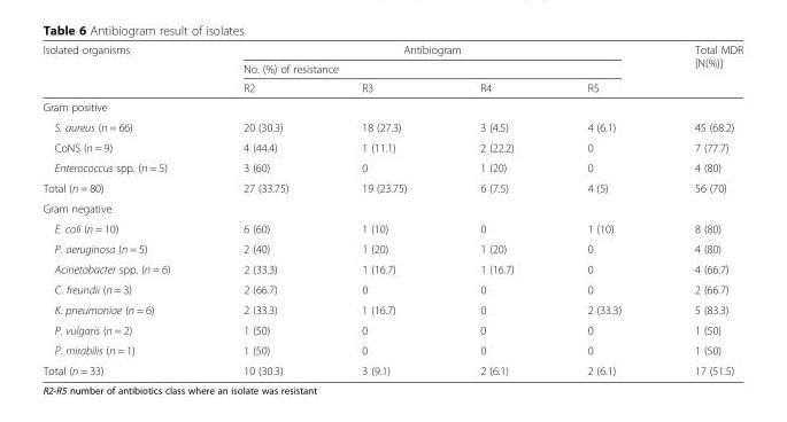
<table><thead><tr><td rowspan="3">Isolated organisms</td><td rowspan="2" colspan="4">Antibiogram No. (%) of resistance</td><td rowspan="3">Total MDR [N(%)]</td></tr><tr></tr><tr><td>R2</td><td>R3</td><td>R4</td><td>R5</td></tr></thead><tbody><tr><td colspan="6">Gram positive</td></tr><tr><td>S. aureus (n = 66)</td><td>20 (30.3)</td><td>18 (27.3)</td><td>3 (4.5)</td><td>4 (6.1)</td><td>45 (68.2)</td></tr><tr><td>CoNS (n = 9)</td><td>4 (44.4)</td><td>1 (11.1)</td><td>2 (22.2)</td><td>0</td><td>7 (77.7)</td></tr><tr><td>Enterococcus spp. (n = 5)</td><td>3 (60)</td><td>0</td><td>1 (20)</td><td>0</td><td>4 (80)</td></tr><tr><td>Total (n = 80)</td><td>27 (33.75)</td><td>19 (23.75)</td><td>6 (7.5)</td><td>4 (5)</td><td>56 (70)</td></tr><tr><td colspan="6">Gram negative</td></tr><tr><td>E. coli (n = 10)</td><td>6 (60)</td><td>1 (10)</td><td>0</td><td>1 (10)</td><td>8 (80)</td></tr><tr><td>P. aeruginosa (n = 5)</td><td>2 (40)</td><td>1 (20)</td><td>1 (20)</td><td>0</td><td>4 (80)</td></tr><tr><td>Acinetobacter spp. (n = 6)</td><td>2 (33.3)</td><td>1 (16.7)</td><td>1 (16.7)</td><td>0</td><td>4 (66.7)</td></tr><tr><td>C. freundii (n = 3)</td><td>2 (66.7)</td><td>0</td><td>0</td><td>0</td><td>2 (66.7)</td></tr><tr><td>K. pneumoniae (n = 6)</td><td>2 (33.3)</td><td>1 (16.7)</td><td>0</td><td>2 (33.3)</td><td>5 (83.3)</td></tr><tr><td>P. vulgaris (n = 2)</td><td>1 (50)</td><td>0</td><td>0</td><td>0</td><td>1 (50)</td></tr><tr><td>P. mirabilis (n = 1)</td><td>1 (50)</td><td>0</td><td>0</td><td>0</td><td>1 (50)</td></tr><tr><td>Total (n = 33)</td><td>10 (30.3)</td><td>3 (9.1)</td><td>2 (6.1)</td><td>2 (6.1)</td><td>17 (51.5)</td></tr></tbody></table>